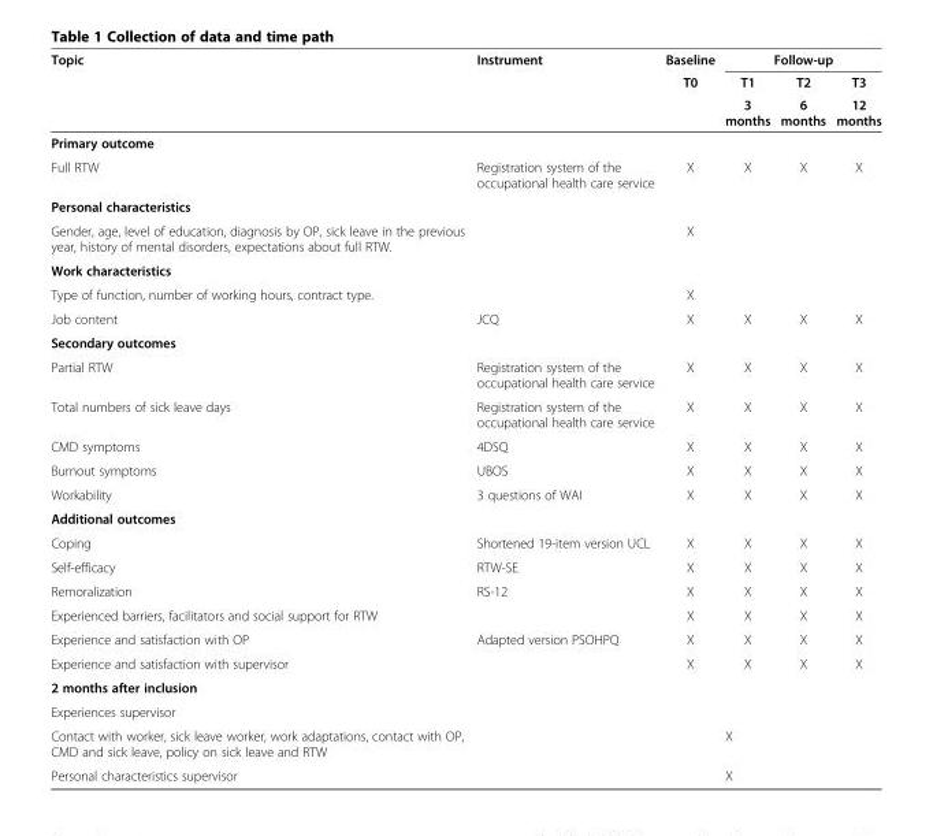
<table><thead><tr><td rowspan="3">Topic</td><td rowspan="3">Instrument</td><td rowspan="3">Baseline T0</td><td colspan="3">Follow-up</td></tr><tr><td rowspan="2">T1 3 months</td><td rowspan="2">T2 6 months</td><td rowspan="2">T3 12 months</td></tr><tr></tr></thead><tbody><tr><td colspan="6">Primary outcome</td></tr><tr><td>Full RTW</td><td>Registration system of the occupational health care service</td><td>X</td><td>X</td><td>X</td><td>X</td></tr><tr><td colspan="6">Personal characteristics</td></tr><tr><td>Gender, age, level of education, diagnosis by OP, sick leave in the previous year, history of mental disorders, expectations about full RTW.</td><td></td><td>X</td><td></td><td></td><td></td></tr><tr><td colspan="6">Work characteristics</td></tr><tr><td>Type of function, number of working hours, contract type.</td><td></td><td>X</td><td></td><td></td><td></td></tr><tr><td>Job content</td><td>JCQ</td><td>X</td><td>X</td><td>X</td><td>X</td></tr><tr><td colspan="6">Secondary outcomes</td></tr><tr><td>Partial RTW</td><td>Registration system of the occupational health care service</td><td>X</td><td>X</td><td>X</td><td>X</td></tr><tr><td>Total numbers of sick leave days</td><td>Registration system of the occupational health care service</td><td>X</td><td>X</td><td>X</td><td>X</td></tr><tr><td>CMD symptoms</td><td>4DSQ</td><td>X</td><td>X</td><td>X</td><td>X</td></tr><tr><td>Burnout symptoms</td><td>UBOS</td><td>X</td><td>X</td><td>X</td><td>X</td></tr><tr><td>Workability</td><td>3 questions of WAI</td><td>X</td><td>X</td><td>X</td><td>X</td></tr><tr><td colspan="6">Additional outcomes</td></tr><tr><td>Coping</td><td>Shortened 19-item version UCL</td><td>X</td><td>X</td><td>X</td><td>X</td></tr><tr><td>Self-efficacy</td><td>RTW-SE</td><td>X</td><td>X</td><td>X</td><td>X</td></tr><tr><td>Remoralization</td><td>RS-12</td><td>X</td><td>X</td><td>X</td><td>X</td></tr><tr><td>Experienced barriers, facilitators and social support for RTW</td><td></td><td>X</td><td>X</td><td>X</td><td>X</td></tr><tr><td>Experience and satisfaction with OP</td><td>Adapted version PSOHPQ</td><td>X</td><td>X</td><td>X</td><td>X</td></tr><tr><td>Experience and satisfaction with supervisor</td><td></td><td>X</td><td>X</td><td>X</td><td>X</td></tr><tr><td colspan="6">2 months after inclusion</td></tr><tr><td colspan="6">Experiences supervisor</td></tr><tr><td>Contact with worker, sick leave worker, work adaptations, contact with OP, CMD and sick leave, policy on sick leave and RTW</td><td></td><td></td><td>X</td><td></td><td></td></tr><tr><td>Personal characteristics supervisor</td><td></td><td></td><td>X</td><td></td><td></td></tr></tbody></table>